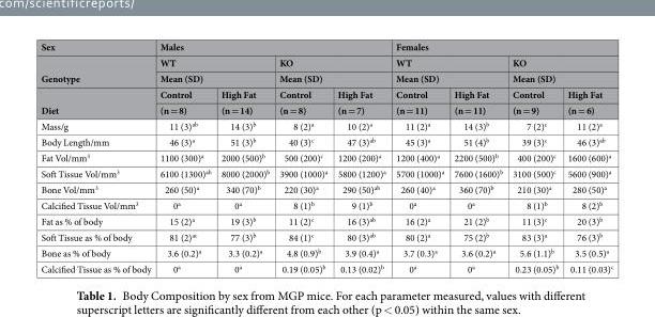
<table><thead><tr><td rowspan="5">Sex Genotype Diet</td><td colspan="4">Males</td><td colspan="4">Females</td></tr><tr><td rowspan="2" colspan="2">WT Mean (SD)</td><td rowspan="2" colspan="2">KO Mean (SD)</td><td rowspan="2" colspan="2">WT Mean (SD)</td><td rowspan="2" colspan="2">KO Mean (SD)</td></tr><tr></tr><tr><td rowspan="2">Control (n = 8)</td><td rowspan="2">High Fat (n = 14)</td><td rowspan="2">Control (n = 8)</td><td rowspan="2">High Fat (n = 7)</td><td rowspan="2">Control (n = 11)</td><td rowspan="2">High Fat (n = 11)</td><td rowspan="2">Control (n = 9)</td><td rowspan="2">High Fat (n = 6)</td></tr><tr></tr></thead><tbody><tr><td>Mass/g</td><td>11 (3)<sup>ab</sup></td><td>14 (3)<sup>b</sup></td><td>8 (2)<sup>a</sup></td><td>10 (2)<sup>a</sup></td><td>11 (2)<sup>a</sup></td><td>14 (3)<sup>b</sup></td><td>7 (2)<sup>c</sup></td><td>11 (2)<sup>a</sup></td></tr><tr><td>Body Length/mm</td><td>46 (3)<sup>a</sup></td><td>51 (3)<sup>b</sup></td><td>40 (3)<sup>c</sup></td><td>47 (3)<sup>ab</sup></td><td>45 (3)<sup>a</sup></td><td>51 (4)<sup>b</sup></td><td>39 (3)<sup>c</sup></td><td>46 (3)<sup>ab</sup></td></tr><tr><td>Fat Vol/mm<sup>3</sup></td><td>1100 (300)<sup>a</sup></td><td>2000 (500)<sup>b</sup></td><td>500 (200)<sup>c</sup></td><td>1200 (200)<sup>a</sup></td><td>1200 (400)<sup>a</sup></td><td>2200 (500)<sup>b</sup></td><td>400 (200)<sup>c</sup></td><td>1600 (600)<sup>a</sup></td></tr><tr><td>Soft Tissue Vol/mm<sup>3</sup></td><td>6100 (1300)<sup>ab</sup></td><td>8000 (2000)<sup>b</sup></td><td>3900 (1000)<sup>a</sup></td><td>5800 (1200)<sup>a</sup></td><td>5700 (1000)<sup>a</sup></td><td>7600 (1600)<sup>b</sup></td><td>3100 (500)<sup>c</sup></td><td>5600 (900)<sup>a</sup></td></tr><tr><td>Bone Vol/mm<sup>3</sup></td><td>260 (50)<sup>a</sup></td><td>340 (70)<sup>b</sup></td><td>220 (30)<sup>a</sup></td><td>290 (50)<sup>ab</sup></td><td>260 (40)<sup>a</sup></td><td>360 (70)<sup>b</sup></td><td>210 (30)<sup>a</sup></td><td>280 (50)<sup>a</sup></td></tr><tr><td>Calcified Tissue Vol/mm<sup>3</sup></td><td>0<sup>a</sup></td><td>0<sup>a</sup></td><td>8 (1)<sup>b</sup></td><td>9 (1)<sup>b</sup></td><td>0<sup>a</sup></td><td>0<sup>a</sup></td><td>8 (1)<sup>b</sup></td><td>8 (2)<sup>b</sup></td></tr><tr><td>Fat as % of body</td><td>15 (2)<sup>a</sup></td><td>19 (3)<sup>b</sup></td><td>11 (2)<sup>c</sup></td><td>16 (3)<sup>ab</sup></td><td>16 (2)<sup>a</sup></td><td>21 (2)<sup>b</sup></td><td>11 (3)<sup>c</sup></td><td>20 (3)<sup>b</sup></td></tr><tr><td>Soft Tissue as % of body</td><td>81 (2)<sup>ac</sup></td><td>77 (3)<sup>b</sup></td><td>84 (1)<sup>c</sup></td><td>80 (3)<sup>ab</sup></td><td>80 (2)<sup>a</sup></td><td>75 (2)<sup>b</sup></td><td>83 (3)<sup>a</sup></td><td>76 (3)<sup>b</sup></td></tr><tr><td>Bone as % of body</td><td>3.6 (0.2)<sup>a</sup></td><td>3.3 (0.2)<sup>a</sup></td><td>4.8 (0.9)<sup>b</sup></td><td>3.9 (0.4)<sup>a</sup></td><td>3.7 (0.3)<sup>a</sup></td><td>3.6 (0.2)<sup>a</sup></td><td>5.6 (1.1)<sup>b</sup></td><td>3.5 (0.5)<sup>a</sup></td></tr><tr><td>Calcified Tissue as % of body</td><td>0<sup>a</sup></td><td>0<sup>a</sup></td><td>0.19 (0.05)<sup>b</sup></td><td>0.13 (0.02)<sup>b</sup></td><td>0<sup>a</sup></td><td>0<sup>a</sup></td><td>0.23 (0.05)<sup>b</sup></td><td>0.11 (0.03)<sup>c</sup></td></tr></tbody></table>